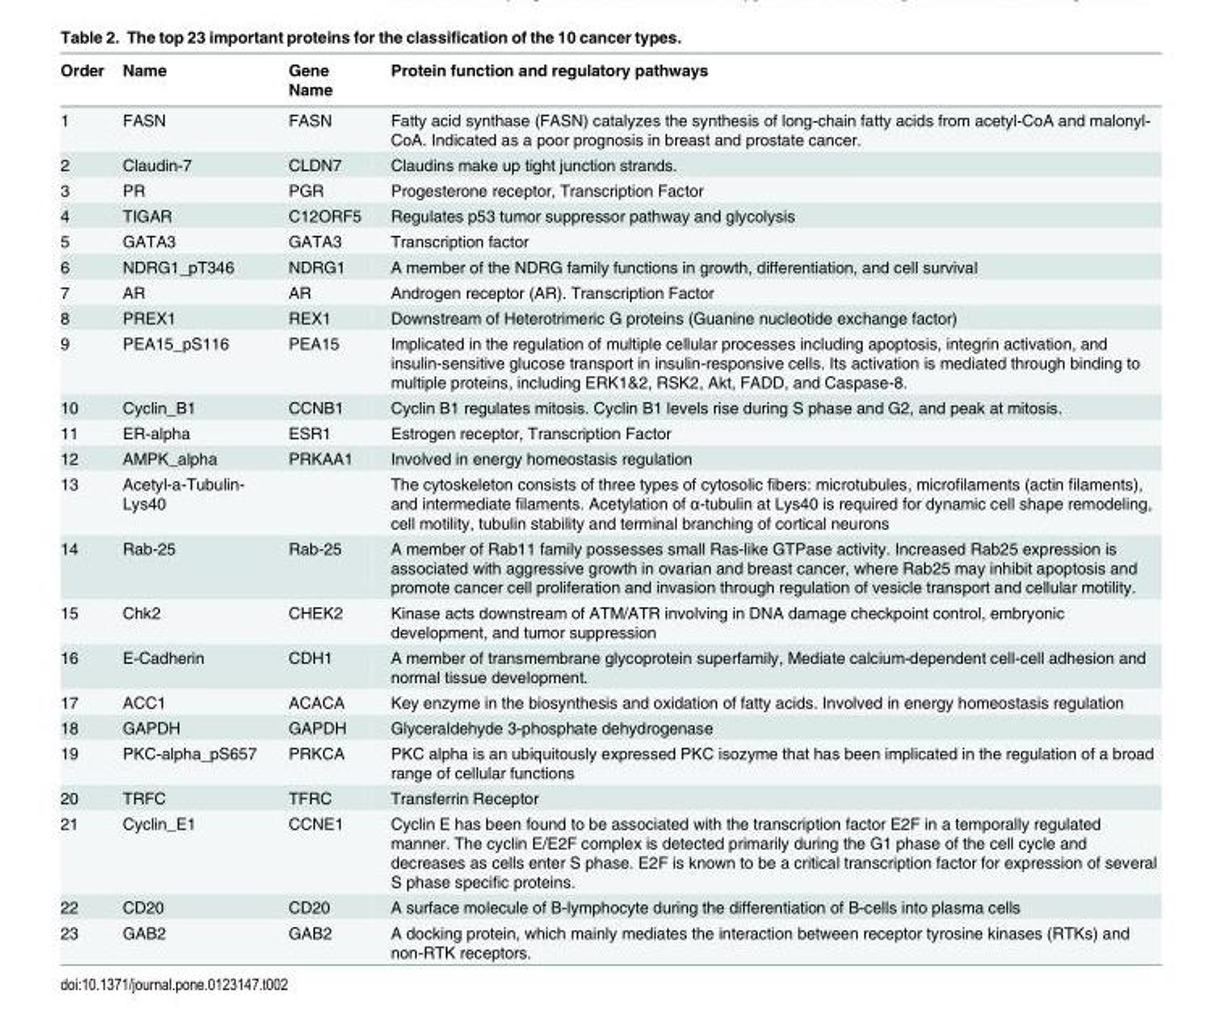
<table><thead><tr><td>Order</td><td>Name</td><td>Gene Name</td><td>Protein function and regulatory pathways</td></tr></thead><tbody><tr><td>1</td><td>FASN</td><td>FASN</td><td>Fatty acid synthase (FASN) catalyzes the synthesis of long-chain fatty acids from acetyl-CoA and malonyl- CoA. Indicated as a poor prognosis in breast and prostate cancer.</td></tr><tr><td>2</td><td>Claudin-7</td><td>CLDN7</td><td>Claudins make up tight junction strands.</td></tr><tr><td>3</td><td>PR</td><td>PGR</td><td>Progesterone receptor, Transcription Factor</td></tr><tr><td>4</td><td>TIGAR</td><td>C12ORF5</td><td>Regulates p53 tumor suppressor pathway and glycolysis</td></tr><tr><td>5</td><td>GATA3</td><td>GATA3</td><td>Transcription factor</td></tr><tr><td>6</td><td>NDRG1_pT346</td><td>NDRG1</td><td>A member of the NDRG family functions in growth, differentiation, and cell survival</td></tr><tr><td>7</td><td>AR</td><td>AR</td><td>Androgen receptor (AR). Transcription Factor</td></tr><tr><td>8</td><td>PREX1</td><td>REX1</td><td>Downstream of Heterotrimeric G proteins (Guanine nucleotide exchange factor)</td></tr><tr><td>9</td><td>PEA15_pS116</td><td>PEA15</td><td>Implicated in the regulation of multiple cellular processes including apoptosis, integrin activation, and insulin-sensitive glucose transport in insulin-responsive cells. Its activation is mediated through binding to multiple proteins, including ERK1&amp;2, RSK2, Akt, FADD, and Caspase-8.</td></tr><tr><td>10</td><td>Cyclin_B1</td><td>CCNB1</td><td>Cyclin B1 regulates mitosis. Cyclin B1 levels rise during S phase and G2, and peak at mitosis.</td></tr><tr><td>11</td><td>ER-alpha</td><td>ESR1</td><td>Estrogen receptor, Transcription Factor</td></tr><tr><td>12</td><td>AMPK_alpha</td><td>PRKAA1</td><td>Involved in energy homeostasis regulation</td></tr><tr><td>13</td><td>Acetyl-a-Tubulin- Lys40</td><td></td><td>The cytoskeleton consists of three types of cytosolic fibers: microtubules, microfilaments (actin filaments), and intermediate filaments. Acetylation of α-tubulin at Lys40 is required for dynamic cell shape remodeling, cell motility, tubulin stability and terminal branching of cortical neurons</td></tr><tr><td>14</td><td>Rab-25</td><td>Rab-25</td><td>A member of Rab11 family possesses small Ras-like GTPase activity. Increased Rab25 expression is associated with aggressive growth in ovarian and breast cancer, where Rab25 may inhibit apoptosis and promote cancer cell proliferation and invasion through regulation of vesicle transport and cellular motility.</td></tr><tr><td>15</td><td>Chk2</td><td>CHEK2</td><td>Kinase acts downstream of ATM/ATR involving in DNA damage checkpoint control, embryonic development, and tumor suppression</td></tr><tr><td>16</td><td>E-Cadherin</td><td>CDH1</td><td>A member of transmembrane glycoprotein superfamily, Mediate calcium-dependent cell-cell adhesion and normal tissue development.</td></tr><tr><td>17</td><td>ACC1</td><td>ACACA</td><td>Key enzyme in the biosynthesis and oxidation of fatty acids. Involved in energy homeostasis regulation</td></tr><tr><td>18</td><td>GAPDH</td><td>GAPDH</td><td>Glyceraldehyde 3-phosphate dehydrogenase</td></tr><tr><td>19</td><td>PKC-alpha_pS657</td><td>PRKCA</td><td>PKC alpha is an ubiquitously expressed PKC isozyme that has been implicated in the regulation of a broad range of cellular functions</td></tr><tr><td>20</td><td>TRFC</td><td>TFRC</td><td>Transferrin Receptor</td></tr><tr><td>21</td><td>Cyclin_E1</td><td>CCNE1</td><td>Cyclin E has been found to be associated with the transcription factor E2F in a temporally regulated manner. The cyclin E/E2F complex is detected primarily during the G1 phase of the cell cycle and decreases as cells enter S phase. E2F is known to be a critical transcription factor for expression of several S phase specific proteins.</td></tr><tr><td>22</td><td>CD20</td><td>CD20</td><td>A surface molecule of B-lymphocyte during the differentiation of B-cells into plasma cells</td></tr><tr><td>23</td><td>GAB2</td><td>GAB2</td><td>A docking protein, which mainly mediates the interaction between receptor tyrosine kinases (RTKs) and non-RTK receptors.</td></tr></tbody></table>